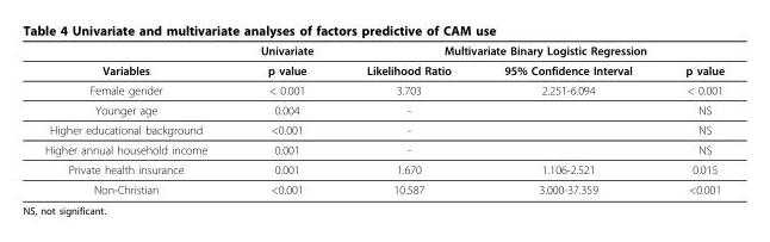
<table><thead><tr><td rowspan="2">Variables</td><td rowspan="2">Univariate p value</td><td colspan="3">Multivariate Binary Logistic Regression</td></tr><tr><td>Likelihood Ratio</td><td>95% Confidence Interval</td><td>p value</td></tr></thead><tbody><tr><td>Female gender</td><td>&lt; 0.001</td><td>3.703</td><td>2.251-6.094</td><td>&lt; 0.001</td></tr><tr><td>Younger age</td><td>0.004</td><td>-</td><td></td><td>NS</td></tr><tr><td>Higher educational background</td><td>&lt;0.001</td><td>-</td><td></td><td>NS</td></tr><tr><td>Higher annual household income</td><td>0.001</td><td>-</td><td></td><td>NS</td></tr><tr><td>Private health insurance</td><td>0.001</td><td>1.670</td><td>1.106-2.521</td><td>0.015</td></tr><tr><td>Non-Christian</td><td>&lt;0.001</td><td>10.587</td><td>3.000-37.359</td><td>&lt;0.001</td></tr></tbody></table>